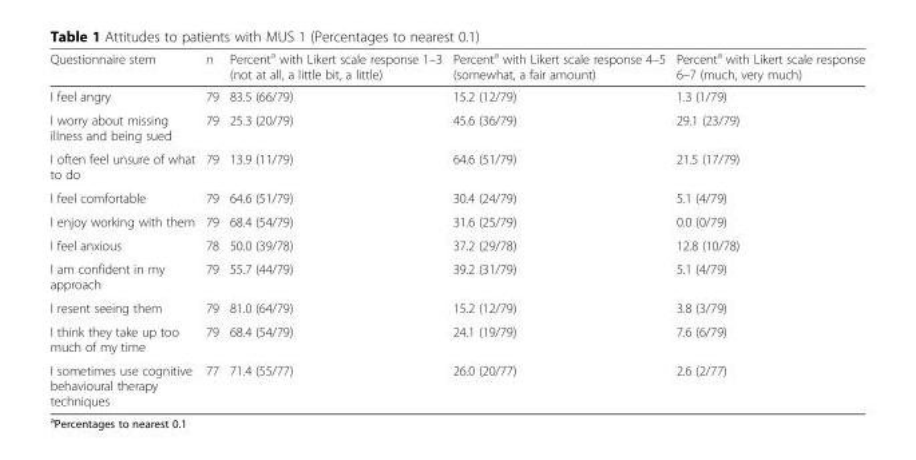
<table><thead><tr><td>Questionnaire stem</td><td>n</td><td>Percent<sup>a</sup> with Likert scale response 1–3 (not at all, a little bit, a little)</td><td>Percent<sup>a</sup> with Likert scale response 4–5 (somewhat, a fair amount)</td><td>Percent<sup>a</sup> with Likert scale response 6–7 (much, very much)</td></tr></thead><tbody><tr><td>I feel angry</td><td>79</td><td>83.5 (66/79)</td><td>15.2 (12/79)</td><td>1.3 (1/79)</td></tr><tr><td>I worry about missing illness and being sued</td><td>79</td><td>25.3 (20/79)</td><td>45.6 (36/79)</td><td>29.1 (23/79)</td></tr><tr><td>I often feel unsure of what to do</td><td>79</td><td>13.9 (11/79)</td><td>64.6 (51/79)</td><td>21.5 (17/79)</td></tr><tr><td>I feel comfortable</td><td>79</td><td>64.6 (51/79)</td><td>30.4 (24/79)</td><td>5.1 (4/79)</td></tr><tr><td>I enjoy working with them</td><td>79</td><td>68.4 (54/79)</td><td>31.6 (25/79)</td><td>0.0 (0/79)</td></tr><tr><td>I feel anxious</td><td>78</td><td>50.0 (39/78)</td><td>37.2 (29/78)</td><td>12.8 (10/78)</td></tr><tr><td>I am confident in my approach</td><td>79</td><td>55.7 (44/79)</td><td>39.2 (31/79)</td><td>5.1 (4/79)</td></tr><tr><td>I resent seeing them</td><td>79</td><td>81.0 (64/79)</td><td>15.2 (12/79)</td><td>3.8 (3/79)</td></tr><tr><td>I think they take up too much of my time</td><td>79</td><td>68.4 (54/79)</td><td>24.1 (19/79)</td><td>7.6 (6/79)</td></tr><tr><td>I sometimes use cognitive behavioural therapy techniques</td><td>77</td><td>71.4 (55/77)</td><td>26.0 (20/77)</td><td>2.6 (2/77)</td></tr></tbody></table>